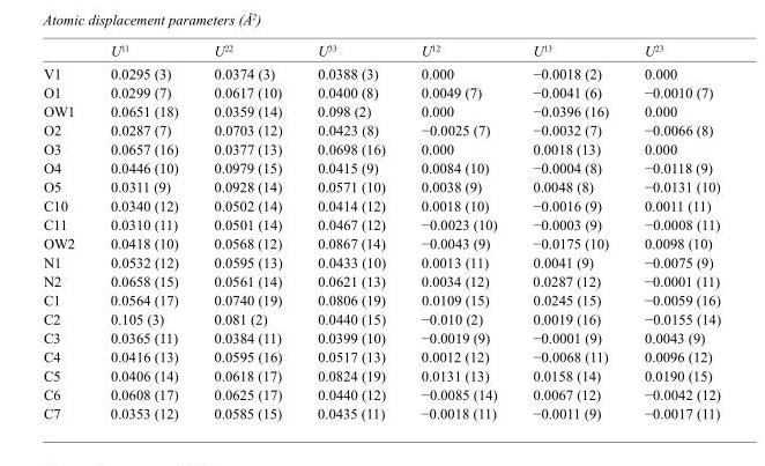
<table><thead><tr><td></td><td>U<sup>11</sup></td><td>U<sup>22</sup></td><td>U<sup>33</sup></td><td>U<sup>12</sup></td><td>U<sup>13</sup></td><td>U<sup>23</sup></td></tr></thead><tbody><tr><td>V1</td><td>0.0295 (3)</td><td>0.0374 (3)</td><td>0.0388 (3)</td><td>0.000</td><td>−0.0018 (2)</td><td>0.000</td></tr><tr><td>O1</td><td>0.0299 (7)</td><td>0.0617 (10)</td><td>0.0400 (8)</td><td>0.0049 (7)</td><td>−0.0041 (6)</td><td>−0.0010 (7)</td></tr><tr><td>OW1</td><td>0.0651 (18)</td><td>0.0359 (14)</td><td>0.098 (2)</td><td>0.000</td><td>−0.0396 (16)</td><td>0.000</td></tr><tr><td>O2</td><td>0.0287 (7)</td><td>0.0703 (12)</td><td>0.0423 (8)</td><td>−0.0025 (7)</td><td>−0.0032 (7)</td><td>−0.0066 (8)</td></tr><tr><td>O3</td><td>0.0657 (16)</td><td>0.0377 (13)</td><td>0.0698 (16)</td><td>0.000</td><td>0.0018 (13)</td><td>0.000</td></tr><tr><td>O4</td><td>0.0446 (10)</td><td>0.0979 (15)</td><td>0.0415 (9)</td><td>0.0084 (10)</td><td>−0.0004 (8)</td><td>−0.0118 (9)</td></tr><tr><td>O5</td><td>0.0311 (9)</td><td>0.0928 (14)</td><td>0.0571 (10)</td><td>0.0038 (9)</td><td>0.0048 (8)</td><td>−0.0131 (10)</td></tr><tr><td>C10</td><td>0.0340 (12)</td><td>0.0502 (14)</td><td>0.0414 (12)</td><td>0.0018 (10)</td><td>−0.0016 (9)</td><td>0.0011 (11)</td></tr><tr><td>C11</td><td>0.0310 (11)</td><td>0.0501 (14)</td><td>0.0467 (12)</td><td>−0.0023 (10)</td><td>−0.0003 (9)</td><td>−0.0008 (11)</td></tr><tr><td>OW2</td><td>0.0418 (10)</td><td>0.0568 (12)</td><td>0.0867 (14)</td><td>−0.0043 (9)</td><td>−0.0175 (10)</td><td>0.0098 (10)</td></tr><tr><td>N1</td><td>0.0532 (12)</td><td>0.0595 (13)</td><td>0.0433 (10)</td><td>0.0013 (11)</td><td>0.0041 (9)</td><td>−0.0075 (9)</td></tr><tr><td>N2</td><td>0.0658 (15)</td><td>0.0561 (14)</td><td>0.0621 (13)</td><td>0.0034 (12)</td><td>0.0287 (12)</td><td>−0.0001 (11)</td></tr><tr><td>C1</td><td>0.0564 (17)</td><td>0.0740 (19)</td><td>0.0806 (19)</td><td>0.0109 (15)</td><td>0.0245 (15)</td><td>−0.0059 (16)</td></tr><tr><td>C2</td><td>0.105 (3)</td><td>0.081 (2)</td><td>0.0440 (15)</td><td>−0.010 (2)</td><td>0.0019 (16)</td><td>−0.0155 (14)</td></tr><tr><td>C3</td><td>0.0365 (11)</td><td>0.0384 (11)</td><td>0.0399 (10)</td><td>−0.0019 (9)</td><td>−0.0001 (9)</td><td>0.0043 (9)</td></tr><tr><td>C4</td><td>0.0416 (13)</td><td>0.0595 (16)</td><td>0.0517 (13)</td><td>0.0012 (12)</td><td>−0.0068 (11)</td><td>0.0096 (12)</td></tr><tr><td>C5</td><td>0.0406 (14)</td><td>0.0618 (17)</td><td>0.0824 (19)</td><td>0.0131 (13)</td><td>0.0158 (14)</td><td>0.0190 (15)</td></tr><tr><td>C6</td><td>0.0608 (17)</td><td>0.0625 (17)</td><td>0.0440 (12)</td><td>−0.0085 (14)</td><td>0.0067 (12)</td><td>−0.0042 (12)</td></tr><tr><td>C7</td><td>0.0353 (12)</td><td>0.0585 (15)</td><td>0.0435 (11)</td><td>−0.0018 (11)</td><td>−0.0011 (9)</td><td>−0.0017 (11)</td></tr></tbody></table>